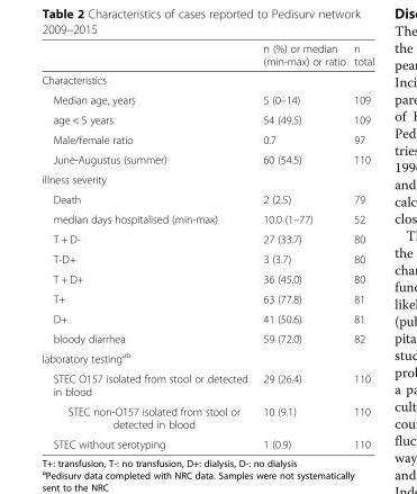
<table><thead><tr><td></td><td>n (%) or median (min-max) or ratio</td><td>n total</td></tr></thead><tbody><tr><td colspan="3">Characteristics</td></tr><tr><td>Median age, years</td><td>5 (0–14)</td><td>109</td></tr><tr><td>age &lt; 5 years</td><td>54 (49.5)</td><td>109</td></tr><tr><td>Male/female ratio</td><td>0.7</td><td>97</td></tr><tr><td>June-Augustus (summer)</td><td>60 (54.5)</td><td>110</td></tr><tr><td colspan="3">illness severity</td></tr><tr><td>Death</td><td>2 (2.5)</td><td>79</td></tr><tr><td>median days hospitalised (min-max)</td><td>10.0 (1–77)</td><td>52</td></tr><tr><td>T + D-</td><td>27 (33.7)</td><td>80</td></tr><tr><td>T-D+</td><td>3 (3.7)</td><td>80</td></tr><tr><td>T + D+</td><td>36 (45.0)</td><td>80</td></tr><tr><td>T+</td><td>63 (77.8)</td><td>81</td></tr><tr><td>D+</td><td>41 (50.6)</td><td>81</td></tr><tr><td>bloody diarrhea</td><td>59 (72.0)</td><td>82</td></tr><tr><td colspan="3">laboratory testing<sup>ab</sup></td></tr><tr><td>STEC O157 isolated from stool or detected in blood</td><td>29 (26.4)</td><td>110</td></tr><tr><td>STEC non-O157 isolated from stool or detected in blood</td><td>10 (9.1)</td><td>110</td></tr><tr><td>STEC without serotyping</td><td>1 (0.9)</td><td>110</td></tr></tbody></table>